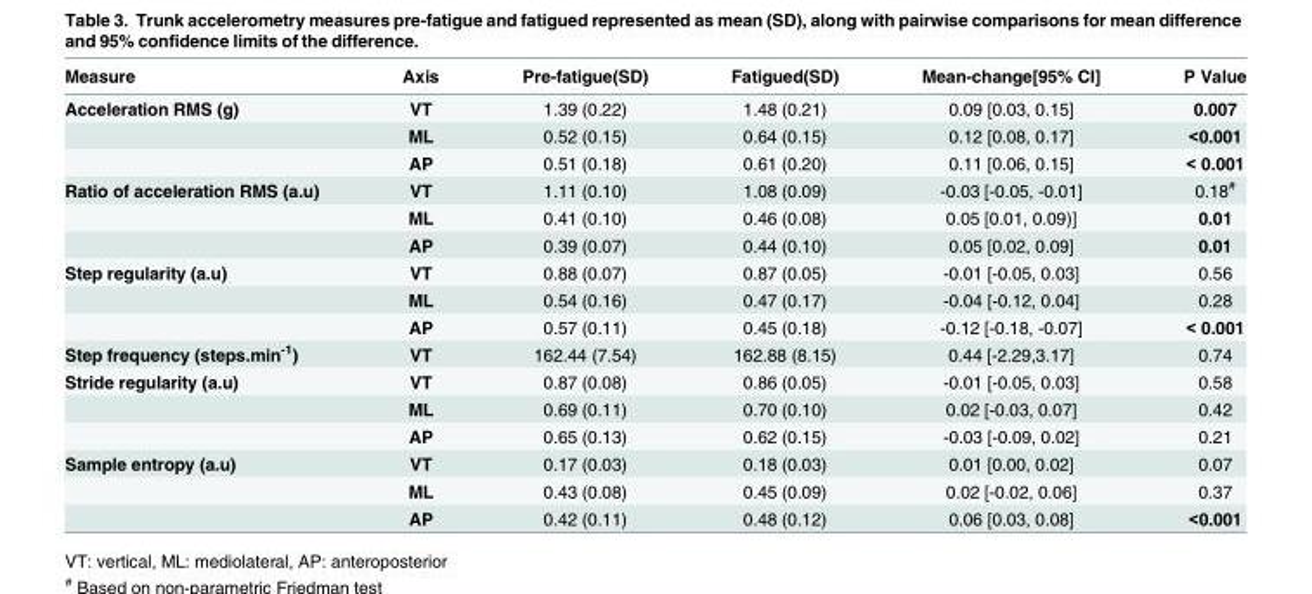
<table><thead><tr><td>Measure</td><td>Axis</td><td>Pre-fatigue(SD)</td><td>Fatigued(SD)</td><td>Mean-change[95% CI]</td><td>P Value</td></tr></thead><tbody><tr><td rowspan="3">Acceleration RMS (g)</td><td>VT</td><td>1.39 (0.22)</td><td>1.48 (0.21)</td><td>0.09 [0.03, 0.15]</td><td>0.007</td></tr><tr><td>ML</td><td>0.52 (0.15)</td><td>0.64 (0.15)</td><td>0.12 [0.08, 0.17]</td><td>&lt;0.001</td></tr><tr><td>AP</td><td>0.51 (0.18)</td><td>0.61 (0.20)</td><td>0.11 [0.06, 0.15]</td><td>&lt; 0.001</td></tr><tr><td rowspan="3">Ratio of acceleration RMS (a.u)</td><td>VT</td><td>1.11 (0.10)</td><td>1.08 (0.09)</td><td>-0.03 [-0.05, -0.01]</td><td>0.18<sup>#</sup></td></tr><tr><td>ML</td><td>0.41 (0.10)</td><td>0.46 (0.08)</td><td>0.05 [0.01, 0.09)]</td><td>0.01</td></tr><tr><td>AP</td><td>0.39 (0.07)</td><td>0.44 (0.10)</td><td>0.05 [0.02, 0.09]</td><td>0.01</td></tr><tr><td rowspan="3">Step regularity (a.u)</td><td>VT</td><td>0.88 (0.07)</td><td>0.87 (0.05)</td><td>-0.01 [-0.05, 0.03]</td><td>0.56</td></tr><tr><td>ML</td><td>0.54 (0.16)</td><td>0.47 (0.17)</td><td>-0.04 [-0.12, 0.04]</td><td>0.28</td></tr><tr><td>AP</td><td>0.57 (0.11)</td><td>0.45 (0.18)</td><td>-0.12 [-0.18, -0.07]</td><td>&lt; 0.001</td></tr><tr><td>Step frequency (steps.min<sup>-1</sup>)</td><td>VT</td><td>162.44 (7.54)</td><td>162.88 (8.15)</td><td>0.44 [-2.29,3.17]</td><td>0.74</td></tr><tr><td rowspan="3">Stride regularity (a.u)</td><td>VT</td><td>0.87 (0.08)</td><td>0.86 (0.05)</td><td>-0.01 [-0.05, 0.03]</td><td>0.58</td></tr><tr><td>ML</td><td>0.69 (0.11)</td><td>0.70 (0.10)</td><td>0.02 [-0.03, 0.07]</td><td>0.42</td></tr><tr><td>AP</td><td>0.65 (0.13)</td><td>0.62 (0.15)</td><td>-0.03 [-0.09, 0.02]</td><td>0.21</td></tr><tr><td rowspan="3">Sample entropy (a.u)</td><td>VT</td><td>0.17 (0.03)</td><td>0.18 (0.03)</td><td>0.01 [0.00, 0.02]</td><td>0.07</td></tr><tr><td>ML</td><td>0.43 (0.08)</td><td>0.45 (0.09)</td><td>0.02 [-0.02, 0.06]</td><td>0.37</td></tr><tr><td>AP</td><td>0.42 (0.11)</td><td>0.48 (0.12)</td><td>0.06 [0.03, 0.08]</td><td>&lt;0.001</td></tr></tbody></table>